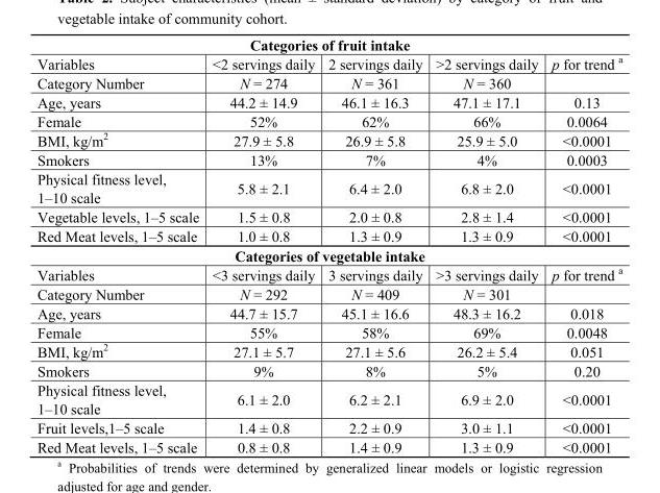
<table><tbody><tr><td colspan="5">Categories of fruit intake</td></tr><tr><td>Variables</td><td>&lt;2 servings daily</td><td>2 servings daily</td><td>&gt;2 servings daily</td><td>p for trend <sup>a</sup></td></tr><tr><td>Category Number</td><td>N = 274</td><td>N = 361</td><td>N = 360</td><td></td></tr><tr><td>Age, years</td><td>44.2 ± 14.9</td><td>46.1 ± 16.3</td><td>47.1 ± 17.1</td><td>0.13</td></tr><tr><td>Female</td><td>52%</td><td>62%</td><td>66%</td><td>0.0064</td></tr><tr><td>BMI, kg/m<sup>2</sup></td><td>27.9 ± 5.8</td><td>26.9 ± 5.8</td><td>25.9 ± 5.0</td><td>&lt;0.0001</td></tr><tr><td>Smokers</td><td>13%</td><td>7%</td><td>4%</td><td>0.0003</td></tr><tr><td>Physical fitness level, 1–10 scale</td><td>5.8 ± 2.1</td><td>6.4 ± 2.0</td><td>6.8 ± 2.0</td><td>&lt;0.0001</td></tr><tr><td>Vegetable levels, 1–5 scale</td><td>1.5 ± 0.8</td><td>2.0 ± 0.8</td><td>2.8 ± 1.4</td><td>&lt;0.0001</td></tr><tr><td>Red Meat levels, 1–5 scale</td><td>1.0 ± 0.8</td><td>1.3 ± 0.9</td><td>1.3 ± 0.9</td><td>&lt;0.0001</td></tr><tr><td colspan="5">Categories of vegetable intake</td></tr><tr><td>Variables</td><td>&lt;3 servings daily</td><td>3 servings daily</td><td>&gt;3 servings daily</td><td>p for trend <sup>a</sup></td></tr><tr><td>Category Number</td><td>N = 292</td><td>N = 409</td><td>N = 301</td><td></td></tr><tr><td>Age, years</td><td>44.7 ± 15.7</td><td>45.1 ± 16.6</td><td>48.3 ± 16.2</td><td>0.018</td></tr><tr><td>Female</td><td>55%</td><td>58%</td><td>69%</td><td>0.0048</td></tr><tr><td>BMI, kg/m<sup>2</sup></td><td>27.1 ± 5.7</td><td>27.1 ± 5.6</td><td>26.2 ± 5.4</td><td>0.051</td></tr><tr><td>Smokers</td><td>9%</td><td>8%</td><td>5%</td><td>0.20</td></tr><tr><td>Physical fitness level, 1–10 scale</td><td>6.1 ± 2.0</td><td>6.2 ± 2.1</td><td>6.9 ± 2.0</td><td>&lt;0.0001</td></tr><tr><td>Fruit levels,1–5 scale</td><td>1.4 ± 0.8</td><td>2.2 ± 0.9</td><td>3.0 ± 1.1</td><td>&lt;0.0001</td></tr><tr><td>Red Meat levels, 1–5 scale</td><td>0.8 ± 0.8</td><td>1.4 ± 0.9</td><td>1.3 ± 0.9</td><td>&lt;0.0001</td></tr></tbody></table>